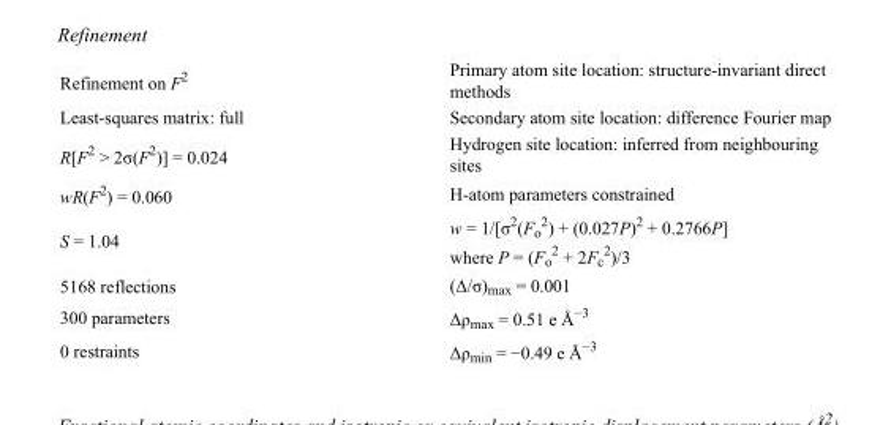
<table><tbody><tr><td>Refinement on F<sup>2</sup></td><td>Primary atom site location: structure-invariant direct methods</td></tr><tr><td>Least-squares matrix: full</td><td>Secondary atom site location: difference Fourier map</td></tr><tr><td>R[F<sup>2</sup> &gt; 2σ(F<sup>2</sup>)] = 0.024</td><td>Hydrogen site location: inferred from neighbouring sites</td></tr><tr><td>wR(F<sup>2</sup>) = 0.060</td><td>H-atom parameters constrained</td></tr><tr><td>S = 1.04</td><td>w = 1/[σ<sup>2</sup>(F<sub>o</sub> <sup>2</sup>) + (0.027P)<sup>2</sup> + 0.2766P] where P = (F<sub>o</sub> <sup>2</sup> + 2F<sub>c</sub> <sup>2</sup>)/3</td></tr><tr><td>5168 reflections</td><td>(Δ/σ)<sub>max</sub> = 0.001</td></tr><tr><td>300 parameters</td><td>Δρ<sub>max</sub> = 0.51 e Å<sup>−3</sup></td></tr><tr><td>0 restraints</td><td>Δρ<sub>min</sub> = −0.49 e Å<sup>−3</sup></td></tr></tbody></table>